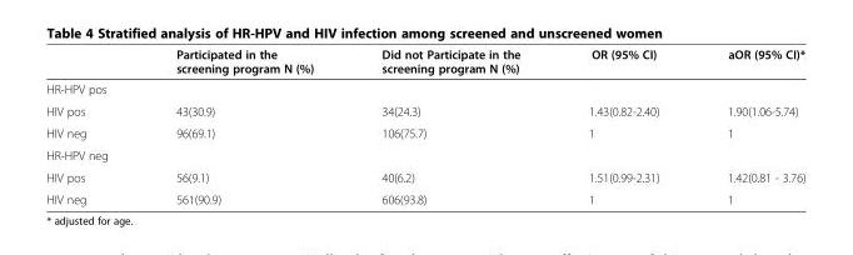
<table><thead><tr><td></td><td>Participated in the screening program N (%)</td><td>Did not Participate in the screening program N (%)</td><td>OR (95% CI)</td><td>aOR (95% CI)*</td></tr></thead><tbody><tr><td colspan="5">HR-HPV pos</td></tr><tr><td>HIV pos</td><td>43(30.9)</td><td>34(24.3)</td><td>1.43(0.82-2.40)</td><td>1.90(1.06-5.74)</td></tr><tr><td>HIV neg</td><td>96(69.1)</td><td>106(75.7)</td><td>1</td><td>1</td></tr><tr><td colspan="5">HR-HPV neg</td></tr><tr><td>HIV pos</td><td>56(9.1)</td><td>40(6.2)</td><td>1.51(0.99-2.31)</td><td>1.42(0.81 - 3.76)</td></tr><tr><td>HIV neg</td><td>561(90.9)</td><td>606(93.8)</td><td>1</td><td>1</td></tr></tbody></table>